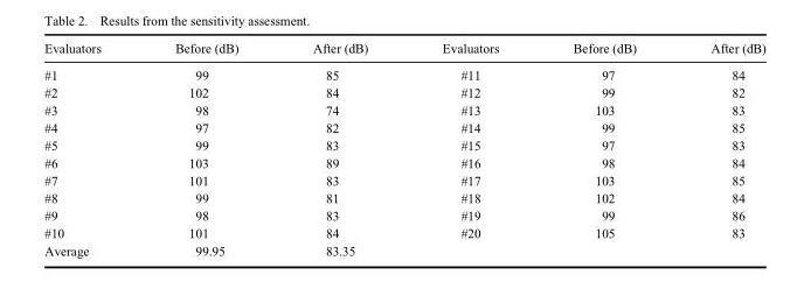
<table><thead><tr><td>Evaluators</td><td>Before (dB)</td><td>After (dB)</td><td>Evaluators</td><td>Before (dB)</td><td>After (dB)</td></tr></thead><tbody><tr><td>#1</td><td>99</td><td>85</td><td>#11</td><td>97</td><td>84</td></tr><tr><td>#2</td><td>102</td><td>84</td><td>#12</td><td>99</td><td>82</td></tr><tr><td>#3</td><td>98</td><td>74</td><td>#13</td><td>103</td><td>83</td></tr><tr><td>#4</td><td>97</td><td>82</td><td>#14</td><td>99</td><td>85</td></tr><tr><td>#5</td><td>99</td><td>83</td><td>#15</td><td>97</td><td>83</td></tr><tr><td>#6</td><td>103</td><td>89</td><td>#16</td><td>98</td><td>84</td></tr><tr><td>#7</td><td>101</td><td>83</td><td>#17</td><td>103</td><td>85</td></tr><tr><td>#8</td><td>99</td><td>81</td><td>#18</td><td>102</td><td>84</td></tr><tr><td>#9</td><td>98</td><td>83</td><td>#19</td><td>99</td><td>86</td></tr><tr><td>#10</td><td>101</td><td>84</td><td>#20</td><td>105</td><td>83</td></tr><tr><td>Average</td><td>99.95</td><td>83.35</td><td></td><td></td><td></td></tr></tbody></table>